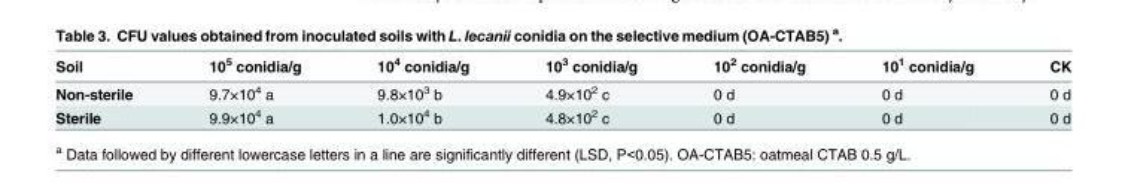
<table><thead><tr><td>Soil</td><td>10<sup>5</sup> conidia/g</td><td>10<sup>4</sup> conidia/g</td><td>10<sup>3</sup> conidia/g</td><td>10<sup>2</sup> conidia/g</td><td>10<sup>1</sup> conidia/g</td><td>CK</td></tr></thead><tbody><tr><td>Non-sterile</td><td>9.7×10<sup>4</sup> a</td><td>9.8×10<sup>3</sup> b</td><td>4.9×10<sup>2</sup> c</td><td>0 d</td><td>0 d</td><td>0 d</td></tr><tr><td>Sterile</td><td>9.9×10<sup>4</sup> a</td><td>1.0×10<sup>4</sup> b</td><td>4.8×10<sup>2</sup> c</td><td>0 d</td><td>0 d</td><td>0 d</td></tr></tbody></table>